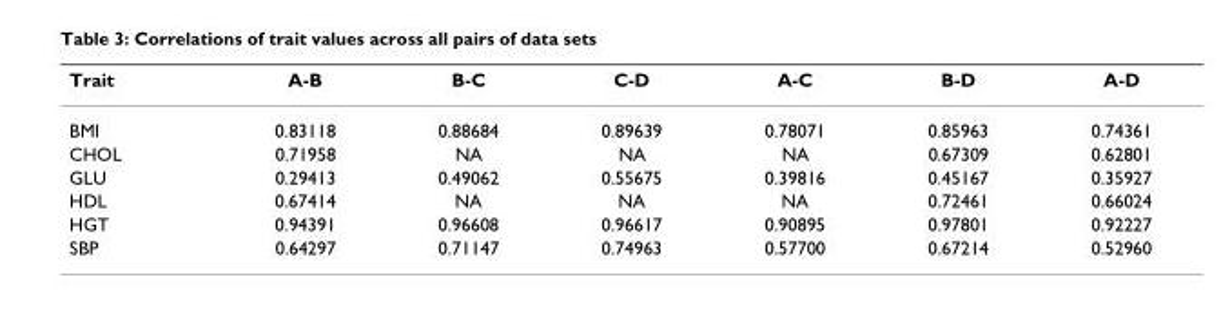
<table><thead><tr><td>Trait</td><td>A-B</td><td>B-C</td><td>C-D</td><td>A-C</td><td>B-D</td><td>A-D</td></tr></thead><tbody><tr><td>BMI</td><td>0.83118</td><td>0.88684</td><td>0.89639</td><td>0.78071</td><td>0.85963</td><td>0.74361</td></tr><tr><td>CHOL</td><td>0.71958</td><td>NA</td><td>NA</td><td>NA</td><td>0.67309</td><td>0.62801</td></tr><tr><td>GLU</td><td>0.29413</td><td>0.49062</td><td>0.55675</td><td>0.39816</td><td>0.45167</td><td>0.35927</td></tr><tr><td>HDL</td><td>0.67414</td><td>NA</td><td>NA</td><td>NA</td><td>0.72461</td><td>0.66024</td></tr><tr><td>HGT</td><td>0.94391</td><td>0.96608</td><td>0.96617</td><td>0.90895</td><td>0.97801</td><td>0.92227</td></tr><tr><td>SBP</td><td>0.64297</td><td>0.71147</td><td>0.74963</td><td>0.57700</td><td>0.67214</td><td>0.52960</td></tr></tbody></table>